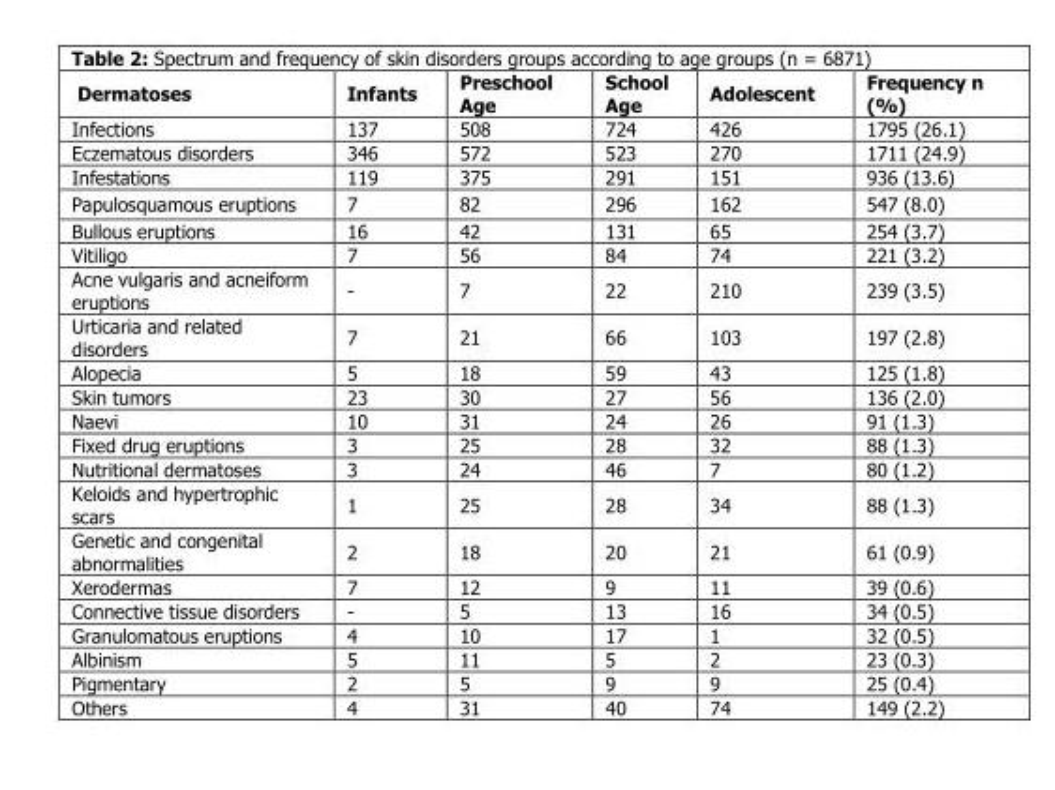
<table><thead><tr><td>Dermatoses</td><td>Infants</td><td>Preschool Age</td><td>School Age</td><td>Adolescent</td><td>Frequency n (%)</td></tr></thead><tbody><tr><td>Infections</td><td>137</td><td>508</td><td>724</td><td>426</td><td>1795 (26.1)</td></tr><tr><td>Eczematous disorders</td><td>346</td><td>572</td><td>523</td><td>270</td><td>1711 (24.9)</td></tr><tr><td>Infestations</td><td>119</td><td>375</td><td>291</td><td>151</td><td>936 (13.6)</td></tr><tr><td>Papulosquamous eruptions</td><td>7</td><td>82</td><td>296</td><td>162</td><td>547 (8.0)</td></tr><tr><td>Bullous eruptions</td><td>16</td><td>42</td><td>131</td><td>65</td><td>254 (3.7)</td></tr><tr><td>Vitiligo</td><td>7</td><td>56</td><td>84</td><td>74</td><td>221 (3.2)</td></tr><tr><td>Acne vulgaris and acneiform eruptions</td><td>-</td><td>7</td><td>22</td><td>210</td><td>239 (3.5)</td></tr><tr><td>Urticaria and related disorders</td><td>7</td><td>21</td><td>66</td><td>103</td><td>197 (2.8)</td></tr><tr><td>Alopecia</td><td>5</td><td>18</td><td>59</td><td>43</td><td>125 (1.8)</td></tr><tr><td>Skin tumors</td><td>23</td><td>30</td><td>27</td><td>56</td><td>136 (2.0)</td></tr><tr><td>Naevi</td><td>10</td><td>31</td><td>24</td><td>26</td><td>91 (1.3)</td></tr><tr><td>Fixed drug eruptions</td><td>3</td><td>25</td><td>28</td><td>32</td><td>88 (1.3)</td></tr><tr><td>Nutritional dermatoses</td><td>3</td><td>24</td><td>46</td><td>7</td><td>80 (1.2)</td></tr><tr><td>Keloids and hypertrophic scars</td><td>1</td><td>25</td><td>28</td><td>34</td><td>88 (1.3)</td></tr><tr><td>Genetic and congenital abnormalities</td><td>2</td><td>18</td><td>20</td><td>21</td><td>61 (0.9)</td></tr><tr><td>Xerodermas</td><td>7</td><td>12</td><td>9</td><td>11</td><td>39 (0.6)</td></tr><tr><td>Connective tissue disorders</td><td>-</td><td>5</td><td>13</td><td>16</td><td>34 (0.5)</td></tr><tr><td>Granulomatous eruptions</td><td>4</td><td>10</td><td>17</td><td>1</td><td>32 (0.5)</td></tr><tr><td>Albinism</td><td>5</td><td>11</td><td>5</td><td>2</td><td>23 (0.3)</td></tr><tr><td>Pigmentary</td><td>2</td><td>5</td><td>9</td><td>9</td><td>25 (0.4)</td></tr><tr><td>Others</td><td>4</td><td>31</td><td>40</td><td>74</td><td>149 (2.2)</td></tr></tbody></table>